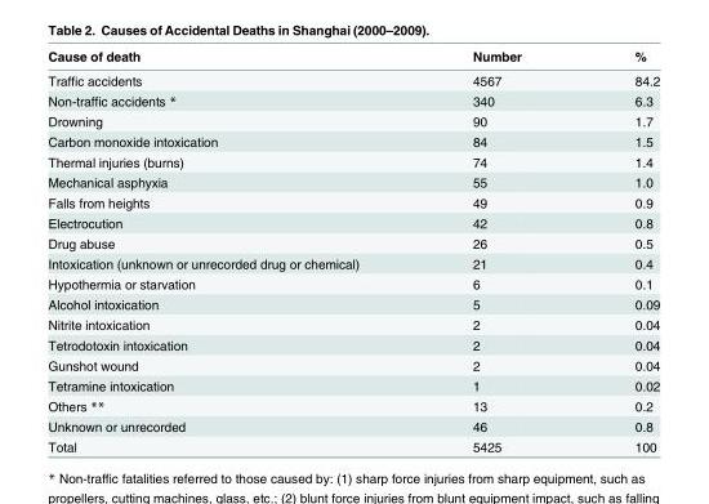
<table><thead><tr><td>Cause of death</td><td>Number</td><td>%</td></tr></thead><tbody><tr><td>Traffic accidents</td><td>4567</td><td>84.2</td></tr><tr><td>Non-traffic accidents *</td><td>340</td><td>6.3</td></tr><tr><td>Drowning</td><td>90</td><td>1.7</td></tr><tr><td>Carbon monoxide intoxication</td><td>84</td><td>1.5</td></tr><tr><td>Thermal injuries (burns)</td><td>74</td><td>1.4</td></tr><tr><td>Mechanical asphyxia</td><td>55</td><td>1.0</td></tr><tr><td>Falls from heights</td><td>49</td><td>0.9</td></tr><tr><td>Electrocution</td><td>42</td><td>0.8</td></tr><tr><td>Drug abuse</td><td>26</td><td>0.5</td></tr><tr><td>Intoxication (unknown or unrecorded drug or chemical)</td><td>21</td><td>0.4</td></tr><tr><td>Hypothermia or starvation</td><td>6</td><td>0.1</td></tr><tr><td>Alcohol intoxication</td><td>5</td><td>0.09</td></tr><tr><td>Nitrite intoxication</td><td>2</td><td>0.04</td></tr><tr><td>Tetrodotoxin intoxication</td><td>2</td><td>0.04</td></tr><tr><td>Gunshot wound</td><td>2</td><td>0.04</td></tr><tr><td>Tetramine intoxication</td><td>1</td><td>0.02</td></tr><tr><td>Others **</td><td>13</td><td>0.2</td></tr><tr><td>Unknown or unrecorded</td><td>46</td><td>0.8</td></tr><tr><td>Total</td><td>5425</td><td>100</td></tr></tbody></table>